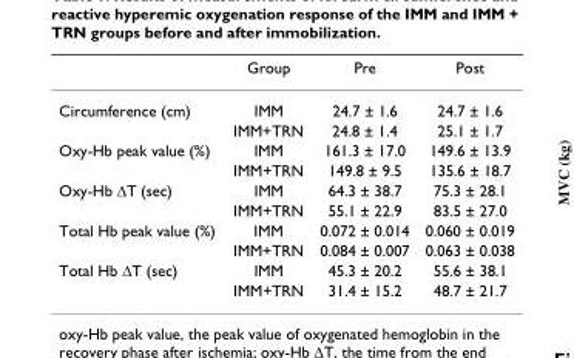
<table><thead><tr><td></td><td>Group</td><td>Pre</td><td>Post</td></tr></thead><tbody><tr><td rowspan="2">Circumference (cm)</td><td>IMM</td><td>24.7 ± 1.6</td><td>24.7 ± 1.6</td></tr><tr><td>IMM+TRN</td><td>24.8 ± 1.4</td><td>25.1 ± 1.7</td></tr><tr><td rowspan="2">Oxy-Hb peak value (%)</td><td>IMM</td><td>161.3 ± 17.0</td><td>149.6 ± 13.9</td></tr><tr><td>IMM+TRN</td><td>149.8 ± 9.5</td><td>135.6 ± 18.7</td></tr><tr><td rowspan="2">Oxy-Hb ΔT (sec)</td><td>IMM</td><td>64.3 ± 38.7</td><td>75.3 ± 28.1</td></tr><tr><td>IMM+TRN</td><td>55.1 ± 22.9</td><td>83.5 ± 27.0</td></tr><tr><td rowspan="2">Total Hb peak value (%)</td><td>IMM</td><td>0.072 ± 0.014</td><td>0.060 ± 0.019</td></tr><tr><td>IMM+TRN</td><td>0.084 ± 0.007</td><td>0.063 ± 0.038</td></tr><tr><td rowspan="2">Total Hb ΔT (sec)</td><td>IMM</td><td>45.3 ± 20.2</td><td>55.6 ± 38.1</td></tr><tr><td>IMM+TRN</td><td>31.4 ± 15.2</td><td>48.7 ± 21.7</td></tr></tbody></table>